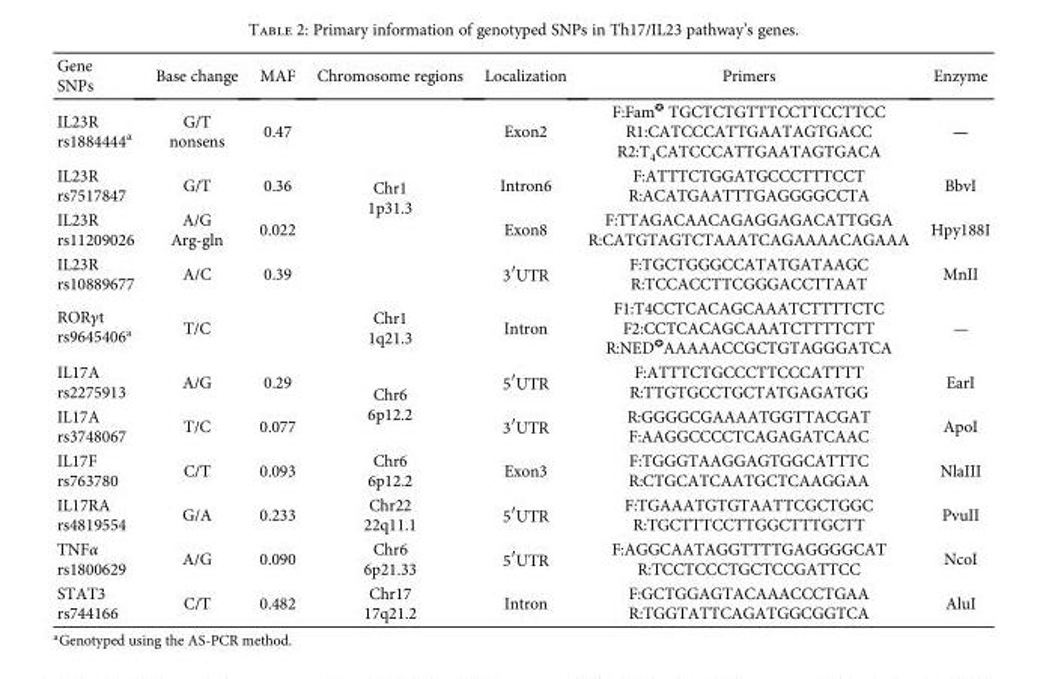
<table><thead><tr><td>Gene SNPs</td><td>Base change</td><td>MAF</td><td>Chromosome regions</td><td>Localization</td><td>Primers</td><td>Enzyme</td></tr></thead><tbody><tr><td>IL23R rs1884444<sup>a</sup></td><td>G/T nonsens</td><td>0.47</td><td rowspan="4">Chr1 1p31.3</td><td>Exon2</td><td>F:Fam<sup>✪</sup> TGCTCTGTTTCCTTCCTTCC R1:CATCCCATTGAATAGTGACC R2:T<sub>4</sub>CATCCCATTGAATAGTGACA</td><td>—</td></tr><tr><td>IL23R rs7517847</td><td>G/T</td><td>0.36</td><td>Intron6</td><td>F:ATTTCTGGATGCCCTTTCCT R:ACATGAATTTGAGGGGCCTA</td><td>BbvI</td></tr><tr><td>IL23R rs11209026</td><td>A/G Arg-gln</td><td>0.022</td><td>Exon8</td><td>F:TTAGACAACAGAGGAGACATTGGA R:CATGTAGTCTAAATCAGAAAACAGAAA</td><td>Hpy188I</td></tr><tr><td>IL23R rs10889677</td><td>A/C</td><td>0.39</td><td>3′UTR</td><td>F:TGCTGGGCCATATGATAAGC R:TCCACCTTCGGGACCTTAAT</td><td>MnII</td></tr><tr><td>RORγt rs9645406<sup>a</sup></td><td>T/C</td><td></td><td>Chr1 1q21.3</td><td>Intron</td><td>F1:T4CCTCACAGCAAATCTTTTCTC F2:CCTCACAGCAAATCTTTTCTT R:NED<sup>✪</sup>AAAAACCGCTGTAGGGATCA</td><td>—</td></tr><tr><td>IL17A rs2275913</td><td>A/G</td><td>0.29</td><td rowspan="2">Chr6 6p12.2</td><td>5′UTR</td><td>F:ATTTCTGCCCTTCCCATTTT R:TTGTGCCTGCTATGAGATGG</td><td>EarI</td></tr><tr><td>IL17A rs3748067</td><td>T/C</td><td>0.077</td><td>3′UTR</td><td>R:GGGGCGAAAATGGTTACGAT F:AAGGCCCCTCAGAGATCAAC</td><td>ApoI</td></tr><tr><td>IL17F rs763780</td><td>C/T</td><td>0.093</td><td>Chr6 6p12.2</td><td>Exon3</td><td>F:TGGGTAAGGAGTGGCATTTC R:CTGCATCAATGCTCAAGGAA</td><td>NlaIII</td></tr><tr><td>IL17RA rs4819554</td><td>G/A</td><td>0.233</td><td>Chr22 22q11.1</td><td>5′UTR</td><td>F:TGAAATGTGTAATTCGCTGGC R:TGCTTTCCTTGGCTTTGCTT</td><td>PvuII</td></tr><tr><td>TNFα rs1800629</td><td>A/G</td><td>0.090</td><td>Chr6 6p21.33</td><td>5′UTR</td><td>F:AGGCAATAGGTTTTGAGGGGCAT R:TCCTCCCTGCTCCGATTCC</td><td>NcoI</td></tr><tr><td>STAT3 rs744166</td><td>C/T</td><td>0.482</td><td>Chr17 17q21.2</td><td>Intron</td><td>F:GCTGGAGTACAAACCCTGAA R:TGGTATTCAGATGGCGGTCA</td><td>AluI</td></tr></tbody></table>